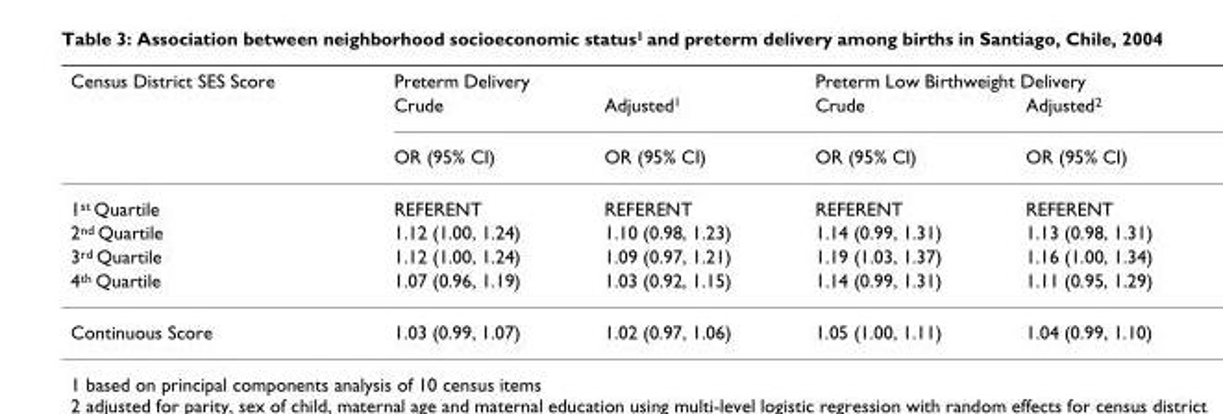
<table><thead><tr><td rowspan="3">Census District SES Score</td><td colspan="2">Preterm Delivery</td><td colspan="2">Preterm Low Birthweight Delivery</td></tr><tr><td rowspan="2">Crude OR (95% CI)</td><td rowspan="2">Adjusted<sup>1</sup> OR (95% CI)</td><td rowspan="2">Crude OR (95% CI)</td><td rowspan="2">Adjusted<sup>2</sup> OR (95% CI)</td></tr><tr></tr></thead><tbody><tr><td>1<sup>st</sup> Quartile</td><td>REFERENT</td><td>REFERENT</td><td>REFERENT</td><td>REFERENT</td></tr><tr><td>2<sup>nd</sup> Quartile</td><td>1.12 (1.00, 1.24)</td><td>1.10 (0.98, 1.23)</td><td>1.14 (0.99, 1.31)</td><td>1.13 (0.98, 1.31)</td></tr><tr><td>3<sup>rd</sup> Quartile</td><td>1.12 (1.00, 1.24)</td><td>1.09 (0.97, 1.21)</td><td>1.19 (1.03, 1.37)</td><td>1.16 (1.00, 1.34)</td></tr><tr><td>4<sup>th</sup> Quartile</td><td>1.07 (0.96, 1.19)</td><td>1.03 (0.92, 1.15)</td><td>1.14 (0.99, 1.31)</td><td>1.11 (0.95, 1.29)</td></tr><tr><td>Continuous Score</td><td>1.03 (0.99, 1.07)</td><td>1.02 (0.97, 1.06)</td><td>1.05 (1.00, 1.11)</td><td>1.04 (0.99, 1.10)</td></tr></tbody></table>